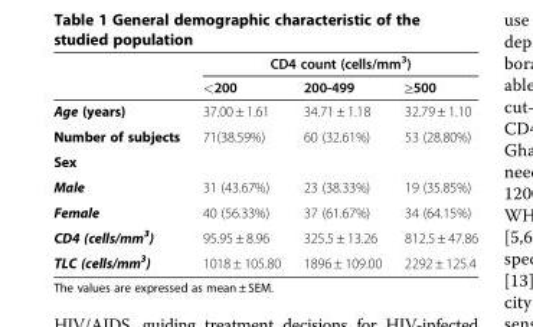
<table><thead><tr><td rowspan="2"></td><td colspan="3">CD4 count (cells/mm<sup>3</sup>)</td></tr><tr><td>&lt;200</td><td>200-499</td><td>≥500</td></tr></thead><tbody><tr><td>Age (years)</td><td>37.00 ± 1.61</td><td>34.71 ± 1.18</td><td>32.79 ± 1.10</td></tr><tr><td>Number of subjects</td><td>71(38.59%)</td><td>60 (32.61%)</td><td>53 (28.80%)</td></tr><tr><td colspan="4">Sex</td></tr><tr><td>Male</td><td>31 (43.67%)</td><td>23 (38.33%)</td><td>19 (35.85%)</td></tr><tr><td>Female</td><td>40 (56.33%)</td><td>37 (61.67%)</td><td>34 (64.15%)</td></tr><tr><td>CD4 (cells/mm<sup>3</sup>)</td><td>95.95 ± 8.96</td><td>325.5 ± 13.26</td><td>812.5 ± 47.86</td></tr><tr><td>TLC (cells/mm<sup>3</sup>)</td><td>1018 ± 105.80</td><td>1896 ± 109.00</td><td>2292 ± 125.4</td></tr></tbody></table>